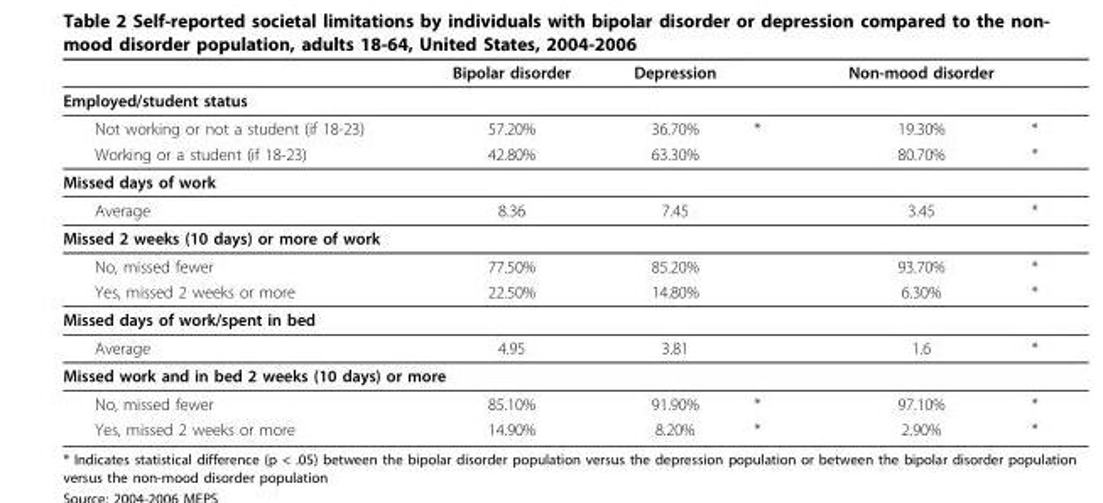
<table><thead><tr><td></td><td>Bipolar disorder</td><td>Depression</td><td></td><td>Non-mood disorder</td><td></td></tr></thead><tbody><tr><td colspan="6">Employed/student status</td></tr><tr><td>Not working or not a student (if 18-23)</td><td>57.20%</td><td>36.70%</td><td>*</td><td>19.30%</td><td>*</td></tr><tr><td>Working or a student (if 18-23)</td><td>42.80%</td><td>63.30%</td><td></td><td>80.70%</td><td>*</td></tr><tr><td colspan="6">Missed days of work</td></tr><tr><td>Average</td><td>8.36</td><td>7.45</td><td></td><td>3.45</td><td>*</td></tr><tr><td colspan="6">Missed 2 weeks (10 days) or more of work</td></tr><tr><td>No, missed fewer</td><td>77.50%</td><td>85.20%</td><td></td><td>93.70%</td><td>*</td></tr><tr><td>Yes, missed 2 weeks or more</td><td>22.50%</td><td>14.80%</td><td></td><td>6.30%</td><td>*</td></tr><tr><td colspan="6">Missed days of work/spent in bed</td></tr><tr><td>Average</td><td>4.95</td><td>3.81</td><td></td><td>1.6</td><td>*</td></tr><tr><td colspan="6">Missed work and in bed 2 weeks (10 days) or more</td></tr><tr><td>No, missed fewer</td><td>85.10%</td><td>91.90%</td><td>*</td><td>97.10%</td><td>*</td></tr><tr><td>Yes, missed 2 weeks or more</td><td>14.90%</td><td>8.20%</td><td>*</td><td>2.90%</td><td>*</td></tr></tbody></table>